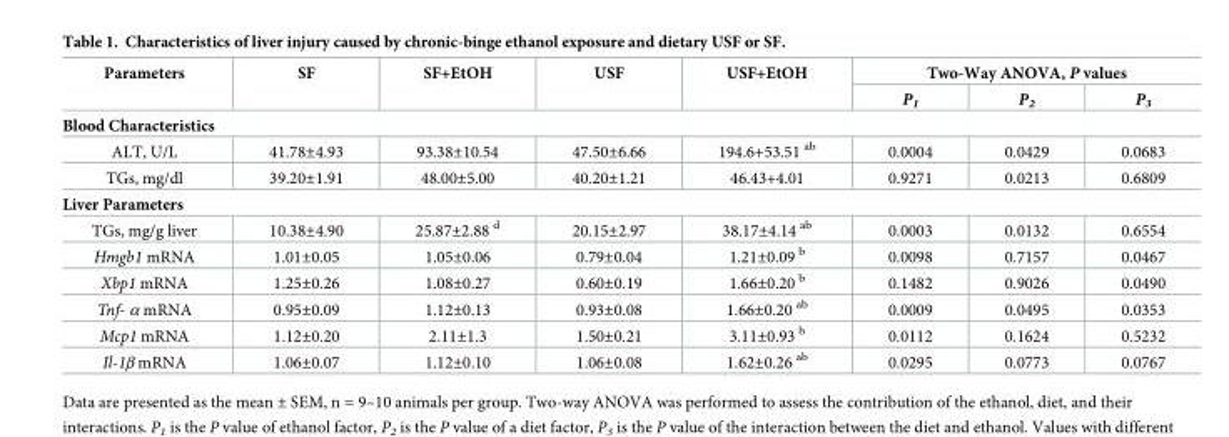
<table><thead><tr><td rowspan="2">Parameters</td><td rowspan="2">SF</td><td rowspan="2">SF+EtOH</td><td rowspan="2">USF</td><td rowspan="2">USF+EtOH</td><td colspan="3">Two-Way ANOVA, P values</td></tr><tr><td>P<sub>1</sub></td><td>P<sub>2</sub></td><td>P<sub>3</sub></td></tr></thead><tbody><tr><td colspan="8">Blood Characteristics</td></tr><tr><td>ALT, U/L</td><td>41.78±4.93</td><td>93.38±10.54</td><td>47.50±6.66</td><td>194.6+53.51 <sup>ab</sup></td><td>0.0004</td><td>0.0429</td><td>0.0683</td></tr><tr><td>TGs, mg/dl</td><td>39.20±1.91</td><td>48.00±5.00</td><td>40.20±1.21</td><td>46.43+4.01</td><td>0.9271</td><td>0.0213</td><td>0.6809</td></tr><tr><td colspan="8">Liver Parameters</td></tr><tr><td>TGs, mg/g liver</td><td>10.38±4.90</td><td>25.87±2.88 <sup>d</sup></td><td>20.15±2.97</td><td>38.17±4.14 <sup>ab</sup></td><td>0.0003</td><td>0.0132</td><td>0.6554</td></tr><tr><td>Hmgb1 mRNA</td><td>1.01±0.05</td><td>1.05±0.06</td><td>0.79±0.04</td><td>1.21±0.09 <sup>b</sup></td><td>0.0098</td><td>0.7157</td><td>0.0467</td></tr><tr><td>Xbp1 mRNA</td><td>1.25±0.26</td><td>1.08±0.27</td><td>0.60±0.19</td><td>1.66±0.20 <sup>b</sup></td><td>0.1482</td><td>0.9026</td><td>0.0490</td></tr><tr><td>Tnf- α mRNA</td><td>0.95±0.09</td><td>1.12±0.13</td><td>0.93±0.08</td><td>1.66±0.20 <sup>ab</sup></td><td>0.0009</td><td>0.0495</td><td>0.0353</td></tr><tr><td>Mcp1 mRNA</td><td>1.12±0.20</td><td>2.11±1.3</td><td>1.50±0.21</td><td>3.11±0.93 <sup>b</sup></td><td>0.0112</td><td>0.1624</td><td>0.5232</td></tr><tr><td>Il-1β mRNA</td><td>1.06±0.07</td><td>1.12±0.10</td><td>1.06±0.08</td><td>1.62±0.26 <sup>ab</sup></td><td>0.0295</td><td>0.0773</td><td>0.0767</td></tr></tbody></table>